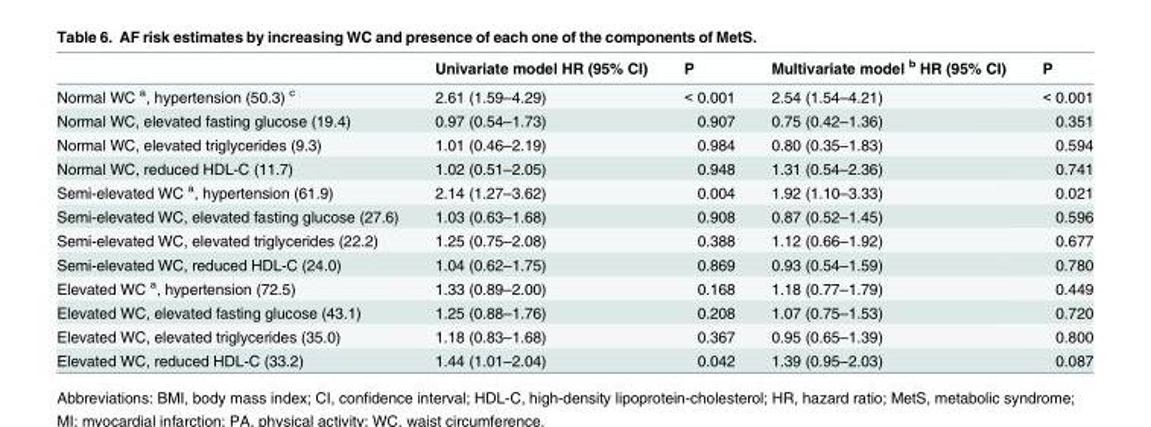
<table><thead><tr><td></td><td>Univariate model HR (95% CI)</td><td>P</td><td>Multivariate model <sup>b</sup> HR (95% CI)</td><td>P</td></tr></thead><tbody><tr><td>Normal WC <sup>a</sup>, hypertension (50.3) <sup>c</sup></td><td>2.61 (1.59–4.29)</td><td>&lt; 0.001</td><td>2.54 (1.54–4.21)</td><td>&lt; 0.001</td></tr><tr><td>Normal WC, elevated fasting glucose (19.4)</td><td>0.97 (0.54–1.73)</td><td>0.907</td><td>0.75 (0.42–1.36)</td><td>0.351</td></tr><tr><td>Normal WC, elevated triglycerides (9.3)</td><td>1.01 (0.46–2.19)</td><td>0.984</td><td>0.80 (0.35–1.83)</td><td>0.594</td></tr><tr><td>Normal WC, reduced HDL-C (11.7)</td><td>1.02 (0.51–2.05)</td><td>0.948</td><td>1.31 (0.54–2.36)</td><td>0.741</td></tr><tr><td>Semi-elevated WC <sup>a</sup>, hypertension (61.9)</td><td>2.14 (1.27–3.62)</td><td>0.004</td><td>1.92 (1.10–3.33)</td><td>0.021</td></tr><tr><td>Semi-elevated WC, elevated fasting glucose (27.6)</td><td>1.03 (0.63–1.68)</td><td>0.908</td><td>0.87 (0.52–1.45)</td><td>0.596</td></tr><tr><td>Semi-elevated WC, elevated triglycerides (22.2)</td><td>1.25 (0.75–2.08)</td><td>0.388</td><td>1.12 (0.66–1.92)</td><td>0.677</td></tr><tr><td>Semi-elevated WC, reduced HDL-C (24.0)</td><td>1.04 (0.62–1.75)</td><td>0.869</td><td>0.93 (0.54–1.59)</td><td>0.780</td></tr><tr><td>Elevated WC <sup>a</sup>, hypertension (72.5)</td><td>1.33 (0.89–2.00)</td><td>0.168</td><td>1.18 (0.77–1.79)</td><td>0.449</td></tr><tr><td>Elevated WC, elevated fasting glucose (43.1)</td><td>1.25 (0.88–1.76)</td><td>0.208</td><td>1.07 (0.75–1.53)</td><td>0.720</td></tr><tr><td>Elevated WC, elevated triglycerides (35.0)</td><td>1.18 (0.83–1.68)</td><td>0.367</td><td>0.95 (0.65–1.39)</td><td>0.800</td></tr><tr><td>Elevated WC, reduced HDL-C (33.2)</td><td>1.44 (1.01–2.04)</td><td>0.042</td><td>1.39 (0.95–2.03)</td><td>0.087</td></tr></tbody></table>